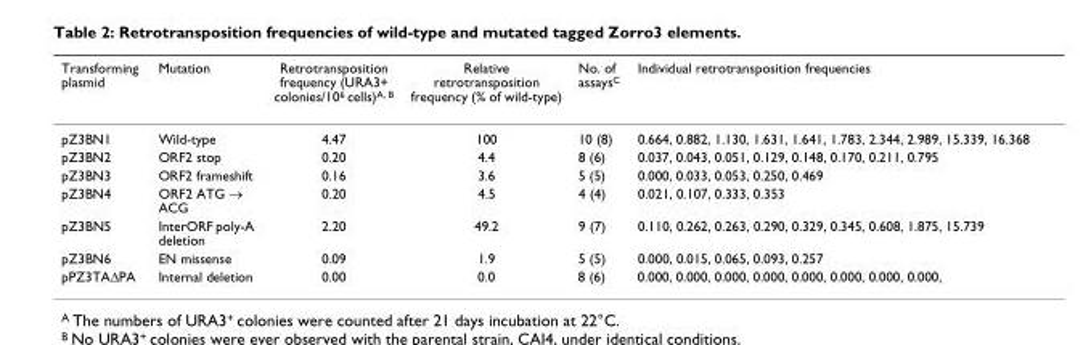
<table><thead><tr><td>Transforming plasmid</td><td>Mutation</td><td>Retrotransposition frequency (URA3+ colonies/10<sup>6</sup> cells)<sup>A, B</sup></td><td>Relative retrotransposition frequency (% of wild-type)</td><td>No. of assays<sup>C</sup></td><td>Individual retrotransposition frequencies</td></tr></thead><tbody><tr><td>pZ3BN1</td><td>Wild-type</td><td>4.47</td><td>100</td><td>10 (8)</td><td>0.664, 0.882, 1.130, 1.631, 1.641, 1.783, 2.344, 2.989, 15.339, 16.368</td></tr><tr><td>pZ3BN2</td><td>ORF2 stop</td><td>0.20</td><td>4.4</td><td>8 (6)</td><td>0.037, 0.043, 0.051, 0.129, 0.148, 0.170, 0.211, 0.795</td></tr><tr><td>pZ3BN3</td><td>ORF2 frameshift</td><td>0.16</td><td>3.6</td><td>5 (5)</td><td>0.000, 0.033, 0.053, 0.250, 0.469</td></tr><tr><td>pZ3BN4</td><td>ORF2 ATG → ACG</td><td>0.20</td><td>4.5</td><td>4 (4)</td><td>0.021, 0.107, 0.333, 0.353</td></tr><tr><td>pZ3BN5</td><td>InterORF poly-A deletion</td><td>2.20</td><td>49.2</td><td>9 (7)</td><td>0.110, 0.262, 0.263, 0.290, 0.329, 0.345, 0.608, 1.875, 15.739</td></tr><tr><td>pZ3BN6</td><td>EN missense</td><td>0.09</td><td>1.9</td><td>5 (5)</td><td>0.000, 0.015, 0.065, 0.093, 0.257</td></tr><tr><td>pPZ3TAΔPA</td><td>Internal deletion</td><td>0.00</td><td>0.0</td><td>8 (6)</td><td>0.000, 0.000, 0.000, 0.000, 0.000, 0.000, 0.000, 0.000,</td></tr></tbody></table>